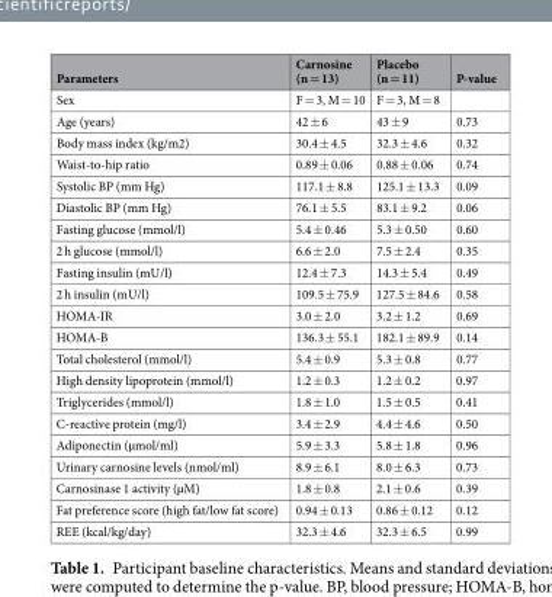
<table><thead><tr><td>Parameters</td><td>Carnosine (n = 13)</td><td>Placebo (n = 11)</td><td>P-value</td></tr></thead><tbody><tr><td>Sex</td><td>F = 3, M = 10</td><td>F = 3, M = 8</td><td></td></tr><tr><td>Age (years)</td><td>42 ± 6</td><td>43 ± 9</td><td>0.73</td></tr><tr><td>Body mass index (kg/m2)</td><td>30.4 ± 4.5</td><td>32.3 ± 4.6</td><td>0.32</td></tr><tr><td>Waist-to-hip ratio</td><td>0.89 ± 0.06</td><td>0.88 ± 0.06</td><td>0.74</td></tr><tr><td>Systolic BP (mm Hg)</td><td>117.1 ± 8.8</td><td>125.1 ± 13.3</td><td>0.09</td></tr><tr><td>Diastolic BP (mm Hg)</td><td>76.1 ± 5.5</td><td>83.1 ± 9.2</td><td>0.06</td></tr><tr><td>Fasting glucose (mmol/l)</td><td>5.4 ± 0.46</td><td>5.3 ± 0.50</td><td>0.60</td></tr><tr><td>2 h glucose (mmol/l)</td><td>6.6 ± 2.0</td><td>7.5 ± 2.4</td><td>0.35</td></tr><tr><td>Fasting insulin (mU/l)</td><td>12.4 ± 7.3</td><td>14.3 ± 5.4</td><td>0.49</td></tr><tr><td>2 h insulin (mU/l)</td><td>109.5 ± 75.9</td><td>127.5 ± 84.6</td><td>0.58</td></tr><tr><td>HOMA-IR</td><td>3.0 ± 2.0</td><td>3.2 ± 1.2</td><td>0.69</td></tr><tr><td>HOMA-B</td><td>136.3 ± 55.1</td><td>182.1 ± 89.9</td><td>0.14</td></tr><tr><td>Total cholesterol (mmol/l)</td><td>5.4 ± 0.9</td><td>5.3 ± 0.8</td><td>0.77</td></tr><tr><td>High density lipoprotein (mmol/l)</td><td>1.2 ± 0.3</td><td>1.2 ± 0.2</td><td>0.97</td></tr><tr><td>Triglycerides (mmol/l)</td><td>1.8 ± 1.0</td><td>1.5 ± 0.5</td><td>0.41</td></tr><tr><td>C-reactive protein (mg/l)</td><td>3.4 ± 2.9</td><td>4.4 ± 4.6</td><td>0.50</td></tr><tr><td>Adiponectin (µmol/ml)</td><td>5.9 ± 3.3</td><td>5.8 ± 1.8</td><td>0.96</td></tr><tr><td>Urinary carnosine levels (nmol/ml)</td><td>8.9 ± 6.1</td><td>8.0 ± 6.3</td><td>0.73</td></tr><tr><td>Carnosinase 1 activity (µM)</td><td>1.8 ± 0.8</td><td>2.1 ± 0.6</td><td>0.39</td></tr><tr><td>Fat preference score (high fat/low fat score)</td><td>0.94 ± 0.13</td><td>0.86 ± 0.12</td><td>0.12</td></tr><tr><td>REE (kcal/kg/day)</td><td>32.3 ± 4.6</td><td>32.3 ± 6.5</td><td>0.99</td></tr></tbody></table>